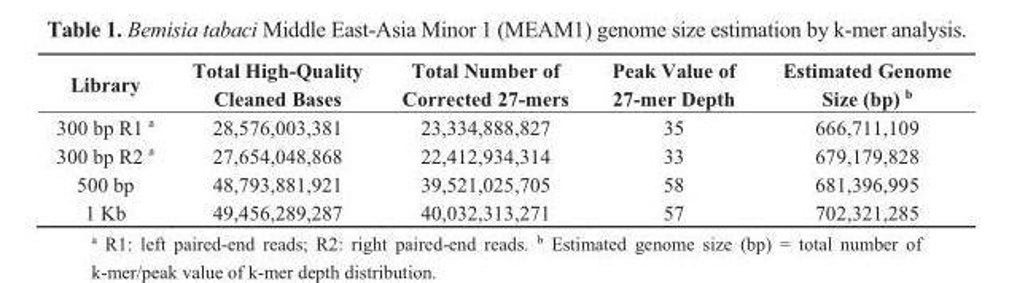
<table><thead><tr><td>Library</td><td>Total High-Quality Cleaned Bases</td><td>Total Number of Corrected 27-mers</td><td>Peak Value of 27-mer Depth</td><td>Estimated Genome Size (bp) <sup>b</sup></td></tr></thead><tbody><tr><td>300 bp R1 <sup>a</sup></td><td>28,576,003,381</td><td>23,334,888,827</td><td>35</td><td>666,711,109</td></tr><tr><td>300 bp R2 <sup>a</sup></td><td>27,654,048,868</td><td>22,412,934,314</td><td>33</td><td>679,179,828</td></tr><tr><td>500 bp</td><td>48,793,881,921</td><td>39,521,025,705</td><td>58</td><td>681,396,995</td></tr><tr><td>1 Kb</td><td>49,456,289,287</td><td>40,032,313,271</td><td>57</td><td>702,321,285</td></tr></tbody></table>